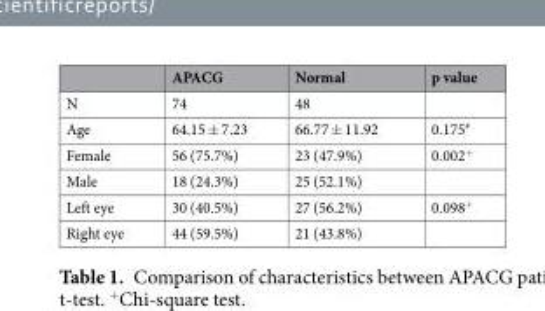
<table><thead><tr><td></td><td>APACG</td><td>Normal</td><td>p value</td></tr></thead><tbody><tr><td>N</td><td>74</td><td>48</td><td></td></tr><tr><td>Age</td><td>64.15 ± 7.23</td><td>66.77 ± 11.92</td><td>0.175<sup>#</sup></td></tr><tr><td>Female</td><td>56 (75.7%)</td><td>23 (47.9%)</td><td>0.002<sup>+</sup></td></tr><tr><td>Male</td><td>18 (24.3%)</td><td>25 (52.1%)</td><td></td></tr><tr><td>Left eye</td><td>30 (40.5%)</td><td>27 (56.2%)</td><td>0.098<sup>+</sup></td></tr><tr><td>Right eye</td><td>44 (59.5%)</td><td>21 (43.8%)</td><td></td></tr></tbody></table>